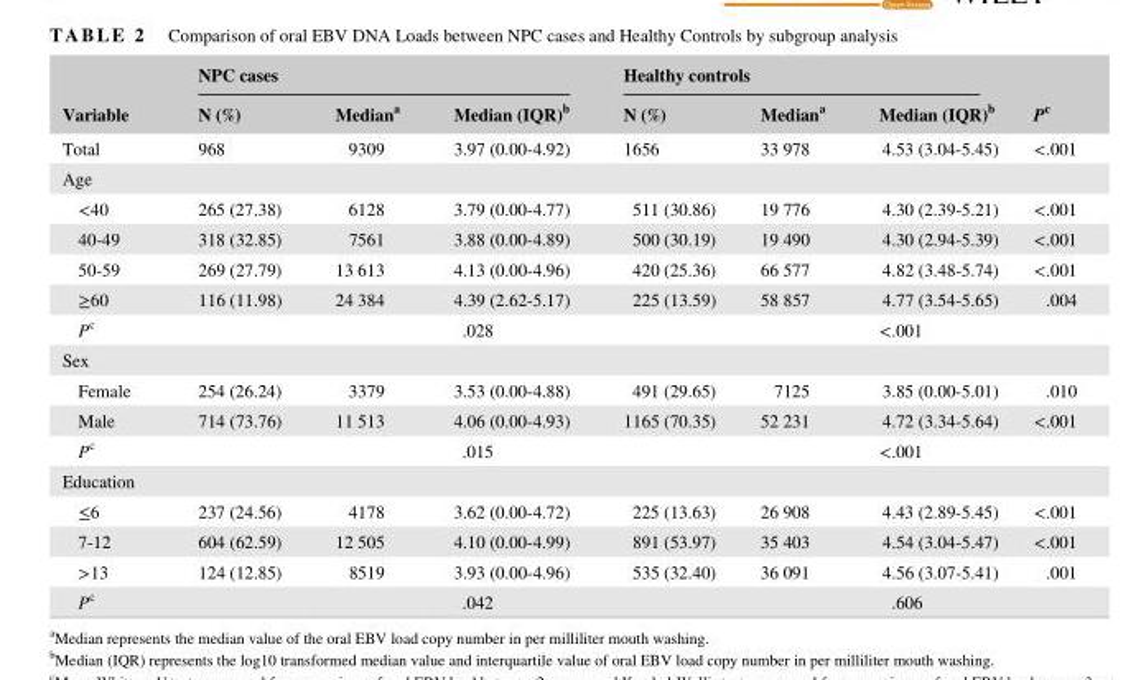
<table><thead><tr><td rowspan="2">Variable</td><td colspan="3">NPC cases</td><td colspan="3">Healthy controls</td><td rowspan="2">Pc</td></tr><tr><td>N (%)</td><td>Median<sup>a</sup></td><td>Median (IQR)<sup>b</sup></td><td>N (%)</td><td>Median<sup>a</sup></td><td>Median (IQR)<sup>b</sup></td></tr></thead><tbody><tr><td>Total</td><td>968</td><td>9309</td><td>3.97 (0.00- 4.92)</td><td>1656</td><td>33 978</td><td>4.53 (3.04- 5.45)</td><td>&lt;.001</td></tr><tr><td colspan="8">Age</td></tr><tr><td>&lt;40</td><td>265 (27.38)</td><td>6128</td><td>3.79 (0.00- 4.77)</td><td>511 (30.86)</td><td>19 776</td><td>4.30 (2.39- 5.21)</td><td>&lt;.001</td></tr><tr><td>40- 49</td><td>318 (32.85)</td><td>7561</td><td>3.88 (0.00- 4.89)</td><td>500 (30.19)</td><td>19 490</td><td>4.30 (2.94- 5.39)</td><td>&lt;.001</td></tr><tr><td>50- 59</td><td>269 (27.79)</td><td>13 613</td><td>4.13 (0.00- 4.96)</td><td>420 (25.36)</td><td>66 577</td><td>4.82 (3.48- 5.74)</td><td>&lt;.001</td></tr><tr><td>≥60</td><td>116 (11.98)</td><td>24 384</td><td>4.39 (2.62- 5.17)</td><td>225 (13.59)</td><td>58 857</td><td>4.77 (3.54- 5.65)</td><td>.004</td></tr><tr><td>Pc</td><td></td><td></td><td>.028</td><td></td><td></td><td>&lt;.001</td><td></td></tr><tr><td colspan="8">Sex</td></tr><tr><td>Female</td><td>254 (26.24)</td><td>3379</td><td>3.53 (0.00- 4.88)</td><td>491 (29.65)</td><td>7125</td><td>3.85 (0.00- 5.01)</td><td>.010</td></tr><tr><td>Male</td><td>714 (73.76)</td><td>11 513</td><td>4.06 (0.00- 4.93)</td><td>1165 (70.35)</td><td>52 231</td><td>4.72 (3.34- 5.64)</td><td>&lt;.001</td></tr><tr><td>Pc</td><td></td><td></td><td>.015</td><td></td><td></td><td>&lt;.001</td><td></td></tr><tr><td colspan="8">Education</td></tr><tr><td>≤6</td><td>237 (24.56)</td><td>4178</td><td>3.62 (0.00- 4.72)</td><td>225 (13.63)</td><td>26 908</td><td>4.43 (2.89- 5.45)</td><td>&lt;.001</td></tr><tr><td>7- 12</td><td>604 (62.59)</td><td>12 505</td><td>4.10 (0.00- 4.99)</td><td>891 (53.97)</td><td>35 403</td><td>4.54 (3.04- 5.47)</td><td>&lt;.001</td></tr><tr><td>&gt;13</td><td>124 (12.85)</td><td>8519</td><td>3.93 (0.00- 4.96)</td><td>535 (32.40)</td><td>36 091</td><td>4.56 (3.07- 5.41)</td><td>.001</td></tr><tr><td>Pc</td><td></td><td></td><td>.042</td><td></td><td></td><td>.606</td><td></td></tr></tbody></table>